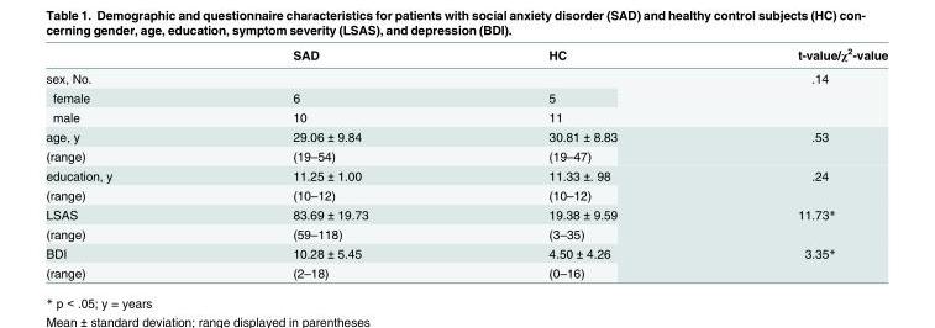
<table><thead><tr><td></td><td>SAD</td><td>HC</td><td>t-value/χ<sup>2</sup>-value</td></tr></thead><tbody><tr><td colspan="3">sex, No.</td><td rowspan="3">.14</td></tr><tr><td>female</td><td>6</td><td>5</td></tr><tr><td>male</td><td>10</td><td>11</td></tr><tr><td>age, y</td><td>29.06 ± 9.84</td><td>30.81 ± 8.83</td><td rowspan="2">.53</td></tr><tr><td>(range)</td><td>(19–54)</td><td>(19–47)</td></tr><tr><td>education, y</td><td>11.25 ± 1.00</td><td>11.33 ±. 98</td><td rowspan="2">.24</td></tr><tr><td>(range)</td><td>(10–12)</td><td>(10–12)</td></tr><tr><td>LSAS</td><td>83.69 ± 19.73</td><td>19.38 ± 9.59</td><td rowspan="2">11.73*</td></tr><tr><td>(range)</td><td>(59–118)</td><td>(3–35)</td></tr><tr><td>BDI</td><td>10.28 ± 5.45</td><td>4.50 ± 4.26</td><td rowspan="2">3.35*</td></tr><tr><td>(range)</td><td>(2–18)</td><td>(0–16)</td></tr></tbody></table>